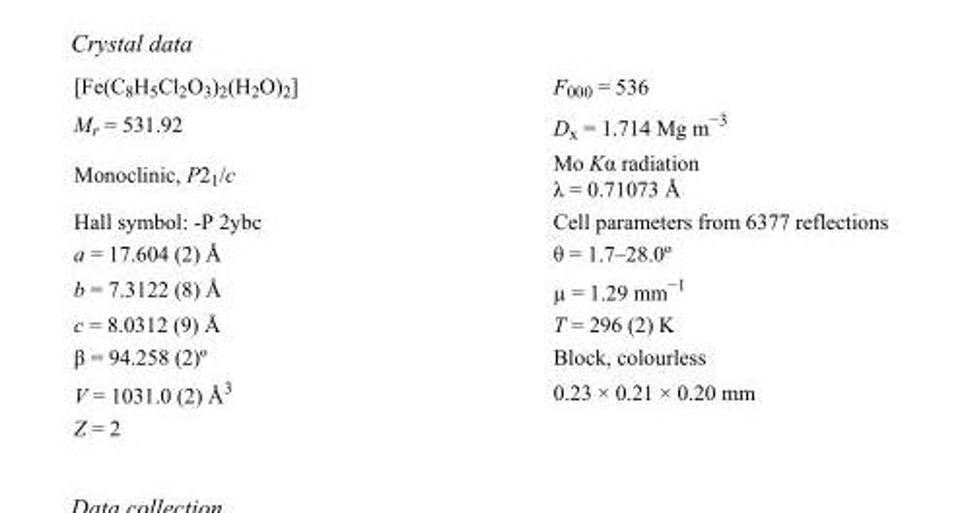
<table><tbody><tr><td>[Fe(C<sub>8</sub>H<sub>5</sub>Cl<sub>2</sub>O<sub>3</sub>)<sub>2</sub>(H<sub>2</sub>O)<sub>2</sub>]</td><td>F000 = 536</td></tr><tr><td>M<sub>r</sub> = 531.92</td><td>D<sub>x</sub> = 1.714 Mg m<sup>−3</sup></td></tr><tr><td>Monoclinic, P2<sub>1</sub>/c</td><td>Mo Kα radiation λ = 0.71073 Å</td></tr><tr><td>Hall symbol: -P 2ybc</td><td>Cell parameters from 6377 reflections</td></tr><tr><td>a = 17.604 (2) Å</td><td>θ = 1.7–28.0º</td></tr><tr><td>b = 7.3122 (8) Å</td><td>µ = 1.29 mm<sup>−1</sup></td></tr><tr><td>c = 8.0312 (9) Å</td><td>T = 296 (2) K</td></tr><tr><td>β = 94.258 (2)º</td><td>Block, colourless</td></tr><tr><td>V = 1031.0 (2) Å<sup>3</sup></td><td>0.23 × 0.21 × 0.20 mm</td></tr><tr><td>Z = 2</td><td></td></tr></tbody></table>